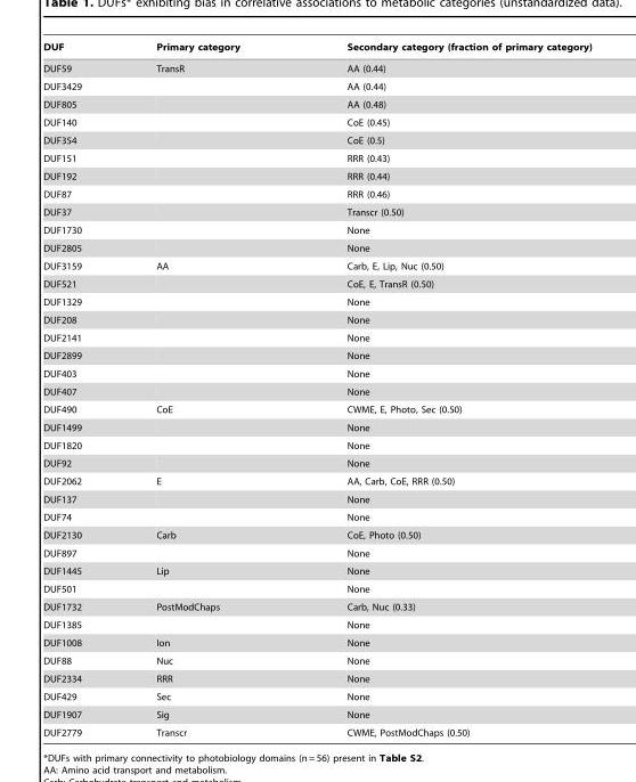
<table><thead><tr><td>DUF</td><td>Primary category</td><td>Secondary category (fraction of primary category)</td></tr></thead><tbody><tr><td>DUF59</td><td>TransR</td><td>AA (0.44)</td></tr><tr><td>DUF3429</td><td></td><td>AA (0.44)</td></tr><tr><td>DUF805</td><td></td><td>AA (0.48)</td></tr><tr><td>DUF140</td><td></td><td>CoE (0.45)</td></tr><tr><td>DUF354</td><td></td><td>CoE (0.5)</td></tr><tr><td>DUF151</td><td></td><td>RRR (0.43)</td></tr><tr><td>DUF192</td><td></td><td>RRR (0.44)</td></tr><tr><td>DUF87</td><td></td><td>RRR (0.46)</td></tr><tr><td>DUF37</td><td></td><td>Transcr (0.50)</td></tr><tr><td>DUF1730</td><td></td><td>None</td></tr><tr><td>DUF2805</td><td></td><td>None</td></tr><tr><td>DUF3159</td><td>AA</td><td>Carb, E, Lip, Nuc (0.50)</td></tr><tr><td>DUF521</td><td></td><td>CoE, E, TransR (0.50)</td></tr><tr><td>DUF1329</td><td></td><td>None</td></tr><tr><td>DUF208</td><td></td><td>None</td></tr><tr><td>DUF2141</td><td></td><td>None</td></tr><tr><td>DUF2899</td><td></td><td>None</td></tr><tr><td>DUF403</td><td></td><td>None</td></tr><tr><td>DUF407</td><td></td><td>None</td></tr><tr><td>DUF490</td><td>CoE</td><td>CWME, E, Photo, Sec (0.50)</td></tr><tr><td>DUF1499</td><td></td><td>None</td></tr><tr><td>DUF1820</td><td></td><td>None</td></tr><tr><td>DUF92</td><td></td><td>None</td></tr><tr><td>DUF2062</td><td>E</td><td>AA, Carb, CoE, RRR (0.50)</td></tr><tr><td>DUF137</td><td></td><td>None</td></tr><tr><td>DUF74</td><td></td><td>None</td></tr><tr><td>DUF2130</td><td>Carb</td><td>CoE, Photo (0.50)</td></tr><tr><td>DUF897</td><td></td><td>None</td></tr><tr><td>DUF1445</td><td>Lip</td><td>None</td></tr><tr><td>DUF501</td><td></td><td>None</td></tr><tr><td>DUF1732</td><td>PostModChaps</td><td>Carb, Nuc (0.33)</td></tr><tr><td>DUF1385</td><td></td><td>None</td></tr><tr><td>DUF1008</td><td>Ion</td><td>None</td></tr><tr><td>DUF88</td><td>Nuc</td><td>None</td></tr><tr><td>DUF2334</td><td>RRR</td><td>None</td></tr><tr><td>DUF429</td><td>Sec</td><td>None</td></tr><tr><td>DUF1907</td><td>Sig</td><td>None</td></tr><tr><td>DUF2779</td><td>Transcr</td><td>CWME, PostModChaps (0.50)</td></tr></tbody></table>